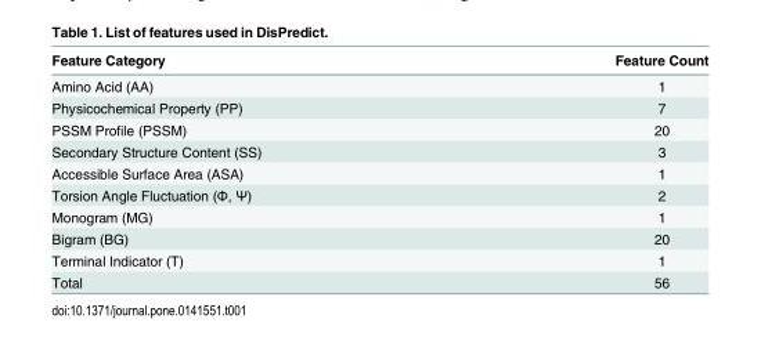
<table><thead><tr><td>Feature Category</td><td>Feature Count</td></tr></thead><tbody><tr><td>Amino Acid (AA)</td><td>1</td></tr><tr><td>Physicochemical Property (PP)</td><td>7</td></tr><tr><td>PSSM Profile (PSSM)</td><td>20</td></tr><tr><td>Secondary Structure Content (SS)</td><td>3</td></tr><tr><td>Accessible Surface Area (ASA)</td><td>1</td></tr><tr><td>Torsion Angle Fluctuation (Φ, Ψ)</td><td>2</td></tr><tr><td>Monogram (MG)</td><td>1</td></tr><tr><td>Bigram (BG)</td><td>20</td></tr><tr><td>Terminal Indicator (T)</td><td>1</td></tr><tr><td>Total</td><td>56</td></tr></tbody></table>